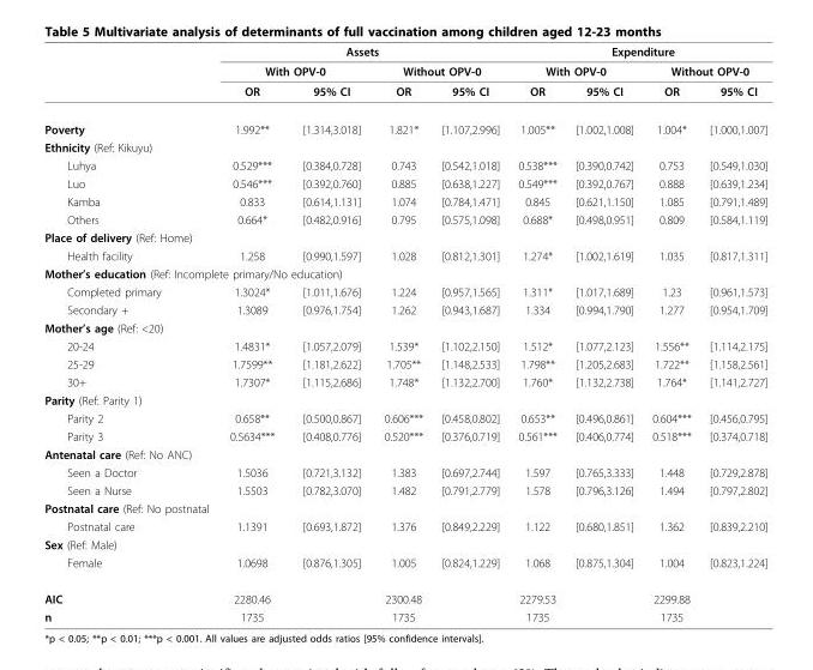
<table><thead><tr><td rowspan="3"></td><td colspan="4">Assets</td><td colspan="4">Expenditure</td></tr><tr><td colspan="2">With OPV-0</td><td colspan="2">Without OPV-0</td><td colspan="2">With OPV-0</td><td colspan="2">Without OPV-0</td></tr><tr><td>OR</td><td>95% CI</td><td>OR</td><td>95% CI</td><td>OR</td><td>95% CI</td><td>OR</td><td>95% CI</td></tr></thead><tbody><tr><td>Poverty</td><td>1.992**</td><td>[1.314,3.018]</td><td>1.821*</td><td>[1.107,2.996]</td><td>1.005**</td><td>[1.002,1.008]</td><td>1.004*</td><td>[1.000,1.007]</td></tr><tr><td colspan="9">Ethnicity (Ref: Kikuyu)</td></tr><tr><td>Luhya</td><td>0.529***</td><td>[0.384,0.728]</td><td>0.743</td><td>[0.542,1.018]</td><td>0.538***</td><td>[0.390,0.742]</td><td>0.753</td><td>[0.549,1.030]</td></tr><tr><td>Luo</td><td>0.546***</td><td>[0.392,0.760]</td><td>0.885</td><td>[0.638,1.227]</td><td>0.549***</td><td>[0.392,0.767]</td><td>0.888</td><td>[0.639,1.234]</td></tr><tr><td>Kamba</td><td>0.833</td><td>[0.614,1.131]</td><td>1.074</td><td>[0.784,1.471]</td><td>0.845</td><td>[0.621,1.150]</td><td>1.085</td><td>[0.791,1.489]</td></tr><tr><td>Others</td><td>0.664*</td><td>[0.482,0.916]</td><td>0.795</td><td>[0.575,1.098]</td><td>0.688*</td><td>[0.498,0.951]</td><td>0.809</td><td>[0.584,1.119]</td></tr><tr><td colspan="9">Place of delivery (Ref: Home)</td></tr><tr><td>Health facility</td><td>1.258</td><td>[0.990,1.597]</td><td>1.028</td><td>[0.812,1.301]</td><td>1.274*</td><td>[1.002,1.619]</td><td>1.035</td><td>[0.817,1.311]</td></tr><tr><td colspan="9">Mother’s education (Ref: Incomplete primary/No education)</td></tr><tr><td>Completed primary</td><td>1.3024*</td><td>[1.011,1.676]</td><td>1.224</td><td>[0.957,1.565]</td><td>1.311*</td><td>[1.017,1.689]</td><td>1.23</td><td>[0.961,1.573]</td></tr><tr><td>Secondary +</td><td>1.3089</td><td>[0.976,1.754]</td><td>1.262</td><td>[0.943,1.687]</td><td>1.334</td><td>[0.994,1.790]</td><td>1.277</td><td>[0.954,1.709]</td></tr><tr><td colspan="9">Mother’s age (Ref: &lt;20)</td></tr><tr><td>20-24</td><td>1.4831*</td><td>[1.057,2.079]</td><td>1.539*</td><td>[1.102,2.150]</td><td>1.512*</td><td>[1.077,2.123]</td><td>1.556**</td><td>[1.114,2.175]</td></tr><tr><td>25-29</td><td>1.7599**</td><td>[1.181,2.622]</td><td>1.705**</td><td>[1.148,2.533]</td><td>1.798**</td><td>[1.205,2.683]</td><td>1.722**</td><td>[1.158,2.561]</td></tr><tr><td>30+</td><td>1.7307*</td><td>[1.115,2.686]</td><td>1.748*</td><td>[1.132,2.700]</td><td>1.760*</td><td>[1.132,2.738]</td><td>1.764*</td><td>[1.141,2.727]</td></tr><tr><td colspan="9">Parity (Ref: Parity 1)</td></tr><tr><td>Parity 2</td><td>0.658**</td><td>[0.500,0.867]</td><td>0.606***</td><td>[0.458,0.802]</td><td>0.653**</td><td>[0.496,0.861]</td><td>0.604***</td><td>[0.456,0.795]</td></tr><tr><td>Parity 3</td><td>0.5634***</td><td>[0.408,0.776]</td><td>0.520***</td><td>[0.376,0.719]</td><td>0.561***</td><td>[0.406,0.774]</td><td>0.518***</td><td>[0.374,0.718]</td></tr><tr><td colspan="9">Antenatal care (Ref: No ANC)</td></tr><tr><td>Seen a Doctor</td><td>1.5036</td><td>[0.721,3.132]</td><td>1.383</td><td>[0.697,2.744]</td><td>1.597</td><td>[0.765,3.333]</td><td>1.448</td><td>[0.729,2.878]</td></tr><tr><td>Seen a Nurse</td><td>1.5503</td><td>[0.782,3.070]</td><td>1.482</td><td>[0.791,2.779]</td><td>1.578</td><td>[0.796,3.126]</td><td>1.494</td><td>[0.797,2.802]</td></tr><tr><td colspan="9">Postnatal care (Ref: No postnatal</td></tr><tr><td>Postnatal care</td><td>1.1391</td><td>[0.693,1.872]</td><td>1.376</td><td>[0.849,2.229]</td><td>1.122</td><td>[0.680,1.851]</td><td>1.362</td><td>[0.839,2.210]</td></tr><tr><td colspan="9">Sex (Ref: Male)</td></tr><tr><td>Female</td><td>1.0698</td><td>[0.876,1.305]</td><td>1.005</td><td>[0.824,1.229]</td><td>1.068</td><td>[0.875,1.304]</td><td>1.004</td><td>[0.823,1.224]</td></tr><tr><td>AIC</td><td>2280.46</td><td></td><td>2300.48</td><td></td><td>2279.53</td><td></td><td>2299.88</td><td></td></tr><tr><td>n</td><td>1735</td><td></td><td>1735</td><td></td><td>1735</td><td></td><td>1735</td><td></td></tr></tbody></table>